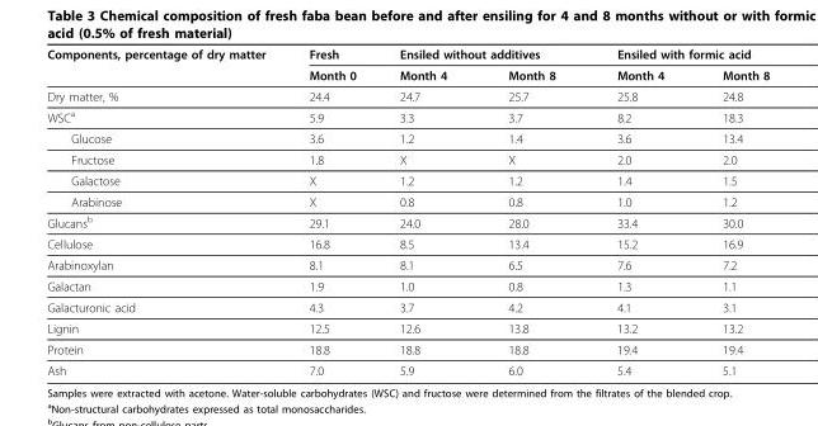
<table><thead><tr><td rowspan="2">Components, percentage of dry matter</td><td rowspan="2">Fresh Month 0</td><td colspan="2">Ensiled without additives</td><td colspan="2">Ensiled with formic acid</td></tr><tr><td>Month 4</td><td>Month 8</td><td>Month 4</td><td>Month 8</td></tr></thead><tbody><tr><td>Dry matter, %</td><td>24.4</td><td>24.7</td><td>25.7</td><td>25.8</td><td>24.8</td></tr><tr><td>WSC<sup>a</sup></td><td>5.9</td><td>3.3</td><td>3.7</td><td>8.2</td><td>18.3</td></tr><tr><td>Glucose</td><td>3.6</td><td>1.2</td><td>1.4</td><td>3.6</td><td>13.4</td></tr><tr><td>Fructose</td><td>1.8</td><td>X</td><td>X</td><td>2.0</td><td>2.0</td></tr><tr><td>Galactose</td><td>X</td><td>1.2</td><td>1.2</td><td>1.4</td><td>1.5</td></tr><tr><td>Arabinose</td><td>X</td><td>0.8</td><td>0.8</td><td>1.0</td><td>1.2</td></tr><tr><td>Glucans<sup>b</sup></td><td>29.1</td><td>24.0</td><td>28.0</td><td>33.4</td><td>30.0</td></tr><tr><td>Cellulose</td><td>16.8</td><td>8.5</td><td>13.4</td><td>15.2</td><td>16.9</td></tr><tr><td>Arabinoxylan</td><td>8.1</td><td>8.1</td><td>6.5</td><td>7.6</td><td>7.2</td></tr><tr><td>Galactan</td><td>1.9</td><td>1.0</td><td>0.8</td><td>1.3</td><td>1.1</td></tr><tr><td>Galacturonic acid</td><td>4.3</td><td>3.7</td><td>4.2</td><td>4.1</td><td>3.1</td></tr><tr><td>Lignin</td><td>12.5</td><td>12.6</td><td>13.8</td><td>13.2</td><td>13.2</td></tr><tr><td>Protein</td><td>18.8</td><td>18.8</td><td>18.8</td><td>19.4</td><td>19.4</td></tr><tr><td>Ash</td><td>7.0</td><td>5.9</td><td>6.0</td><td>5.4</td><td>5.1</td></tr></tbody></table>